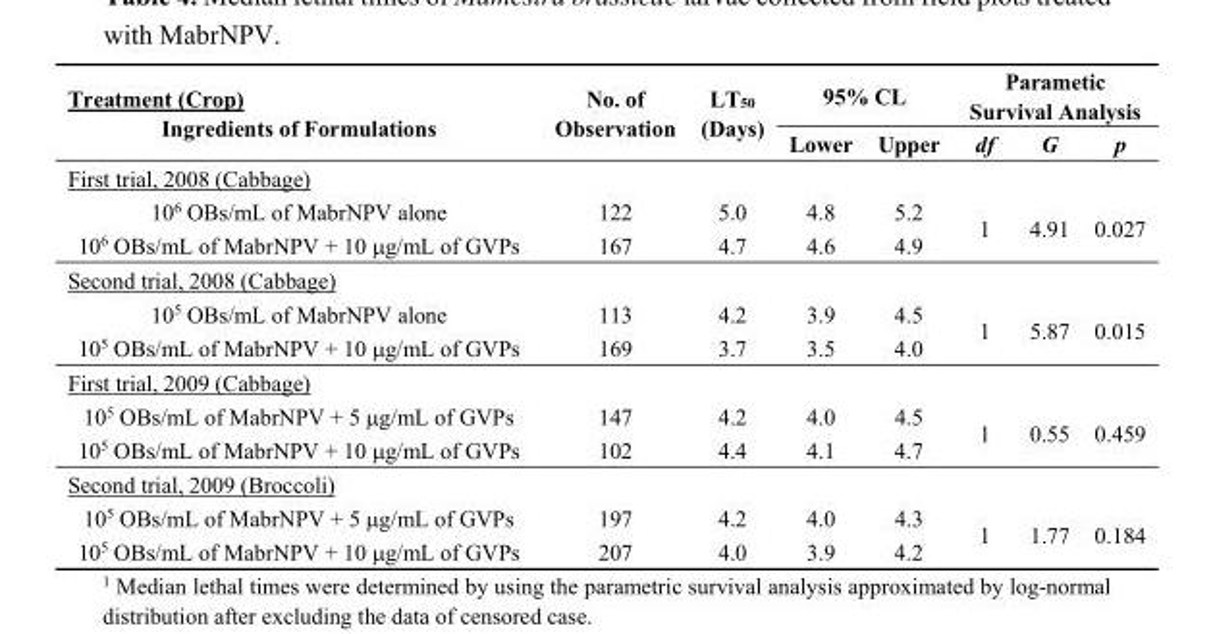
<table><thead><tr><td rowspan="2">Treatment (Crop) Ingredients of Formulations</td><td rowspan="2">No. of Observation</td><td rowspan="2">LT<sub>50</sub> (Days)</td><td colspan="2">95% CL</td><td colspan="3">Parametic Survival Analysis</td></tr><tr><td>Lower</td><td>Upper</td><td>df</td><td>G</td><td>p</td></tr></thead><tbody><tr><td colspan="8">First trial, 2008 (Cabbage)</td></tr><tr><td>10<sup>6</sup> OBs/mL of MabrNPV alone</td><td>122</td><td>5.0</td><td>4.8</td><td>5.2</td><td rowspan="2">1</td><td rowspan="2">4.91</td><td rowspan="2">0.027</td></tr><tr><td>10<sup>6</sup> OBs/mL of MabrNPV + 10 μg/mL of GVPs</td><td>167</td><td>4.7</td><td>4.6</td><td>4.9</td></tr><tr><td colspan="8">Second trial, 2008 (Cabbage)</td></tr><tr><td>10<sup>5</sup> OBs/mL of MabrNPV alone</td><td>113</td><td>4.2</td><td>3.9</td><td>4.5</td><td rowspan="2">1</td><td rowspan="2">5.87</td><td rowspan="2">0.015</td></tr><tr><td>10<sup>5</sup> OBs/mL of MabrNPV + 10 μg/mL of GVPs</td><td>169</td><td>3.7</td><td>3.5</td><td>4.0</td></tr><tr><td colspan="8">First trial, 2009 (Cabbage)</td></tr><tr><td>10<sup>5</sup> OBs/mL of MabrNPV + 5 μg/mL of GVPs</td><td>147</td><td>4.2</td><td>4.0</td><td>4.5</td><td rowspan="2">1</td><td rowspan="2">0.55</td><td rowspan="2">0.459</td></tr><tr><td>10<sup>5</sup> OBs/mL of MabrNPV + 10 μg/mL of GVPs</td><td>102</td><td>4.4</td><td>4.1</td><td>4.7</td></tr><tr><td colspan="8">Second trial, 2009 (Broccoli)</td></tr><tr><td>10<sup>5</sup> OBs/mL of MabrNPV + 5 μg/mL of GVPs</td><td>197</td><td>4.2</td><td>4.0</td><td>4.3</td><td rowspan="2">1</td><td rowspan="2">1.77</td><td rowspan="2">0.184</td></tr><tr><td>10<sup>5</sup> OBs/mL of MabrNPV + 10 μg/mL of GVPs</td><td>207</td><td>4.0</td><td>3.9</td><td>4.2</td></tr></tbody></table>